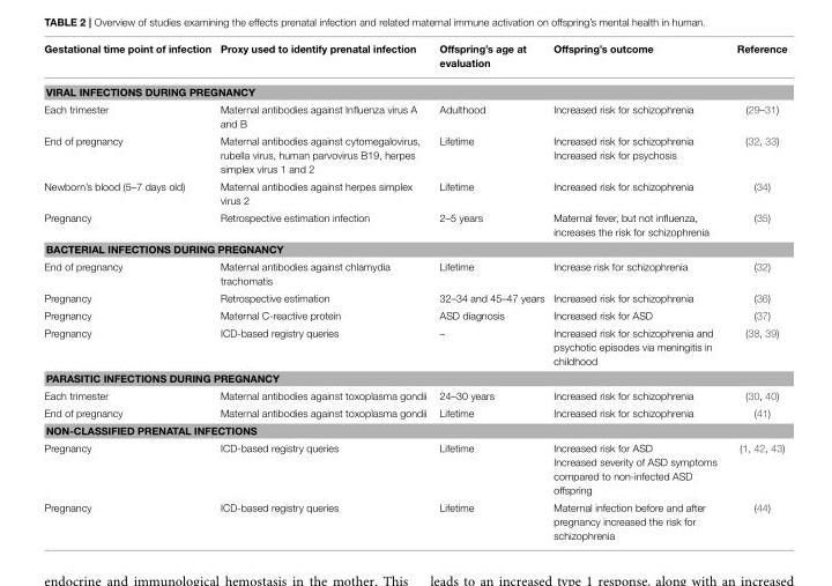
<table><thead><tr><td>Gestational time point of infection</td><td>Proxy used to identify prenatal infection</td><td>Offspring’s age at evaluation</td><td>Offspring’s outcome</td><td>Reference</td></tr></thead><tbody><tr><td colspan="5">VIRAL INFECTIONS DURING PREGNANCY</td></tr><tr><td>Each trimester</td><td>Maternal antibodies against Influenza virus A and B</td><td>Adulthood</td><td>Increased risk for schizophrenia</td><td>(29–31)</td></tr><tr><td>End of pregnancy</td><td>Maternal antibodies against cytomegalovirus, rubella virus, human parvovirus B19, herpes simplex virus 1 and 2</td><td>Lifetime</td><td>Increased risk for schizophrenia Increased risk for psychosis</td><td>(32, 33)</td></tr><tr><td>Newborn’s blood (5–7 days old)</td><td>Maternal antibodies against herpes simplex virus 2</td><td>Lifetime</td><td>Increased risk for schizophrenia</td><td>(34)</td></tr><tr><td>Pregnancy</td><td>Retrospective estimation infection</td><td>2–5 years</td><td>Maternal fever, but not influenza, increases the risk for schizophrenia</td><td>(35)</td></tr><tr><td colspan="5">BACTERIAL INFECTIONS DURING PREGNANCY</td></tr><tr><td>End of pregnancy</td><td>Maternal antibodies against chlamydia trachomatis</td><td>Lifetime</td><td>Increase risk for schizophrenia</td><td>(32)</td></tr><tr><td>Pregnancy</td><td>Retrospective estimation</td><td>32–34 and 45–47 years</td><td>Increased risk for schizophrenia</td><td>(36)</td></tr><tr><td>Pregnancy</td><td>Maternal C-reactive protein</td><td>ASD diagnosis</td><td>Increased risk for ASD</td><td>(37)</td></tr><tr><td>Pregnancy</td><td>ICD-based registry queries</td><td>–</td><td>Increased risk for schizophrenia and psychotic episodes via meningitis in childhood</td><td>(38, 39)</td></tr><tr><td colspan="5">PARASITIC INFECTIONS DURING PREGNANCY</td></tr><tr><td>Each trimester</td><td>Maternal antibodies against toxoplasma gondii</td><td>24–30 years</td><td>Increased risk for schizophrenia</td><td>(30, 40)</td></tr><tr><td>End of pregnancy</td><td>Maternal antibodies against toxoplasma gondii</td><td>Lifetime</td><td>Increased risk for schizophrenia</td><td>(41)</td></tr><tr><td colspan="5">NON-CLASSIFIED PRENATAL INFECTIONS</td></tr><tr><td>Pregnancy</td><td>ICD-based registry queries</td><td>Lifetime</td><td>Increased risk for ASD Increased severity of ASD symptoms compared to non-infected ASD offspring</td><td>(1, 42, 43)</td></tr><tr><td>Pregnancy</td><td>ICD-based registry queries</td><td>Lifetime</td><td>Maternal infection before and after pregnancy increased the risk for schizophrenia</td><td>(44)</td></tr></tbody></table>